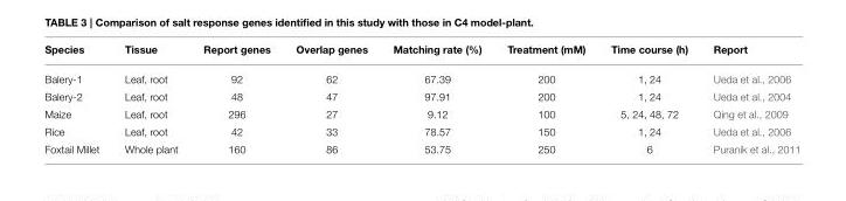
<table><thead><tr><td>Species</td><td>Tissue</td><td>Report genes</td><td>Overlap genes</td><td>Matching rate (%)</td><td>Treatment (mM)</td><td>Time course (h)</td><td>Report</td></tr></thead><tbody><tr><td>Balery-1</td><td>Leaf, root</td><td>92</td><td>62</td><td>67.39</td><td>200</td><td>1, 24</td><td>Ueda et al., 2006</td></tr><tr><td>Balery-2</td><td>Leaf, root</td><td>48</td><td>47</td><td>97.91</td><td>200</td><td>1, 24</td><td>Ueda et al., 2004</td></tr><tr><td>Maize</td><td>Leaf, root</td><td>296</td><td>27</td><td>9.12</td><td>100</td><td>5, 24, 48, 72</td><td>Qing et al., 2009</td></tr><tr><td>Rice</td><td>Leaf, root</td><td>42</td><td>33</td><td>78.57</td><td>150</td><td>1, 24</td><td>Ueda et al., 2006</td></tr><tr><td>Foxtail Millet</td><td>Whole plant</td><td>160</td><td>86</td><td>53.75</td><td>250</td><td>6</td><td>Puranik et al., 2011</td></tr></tbody></table>